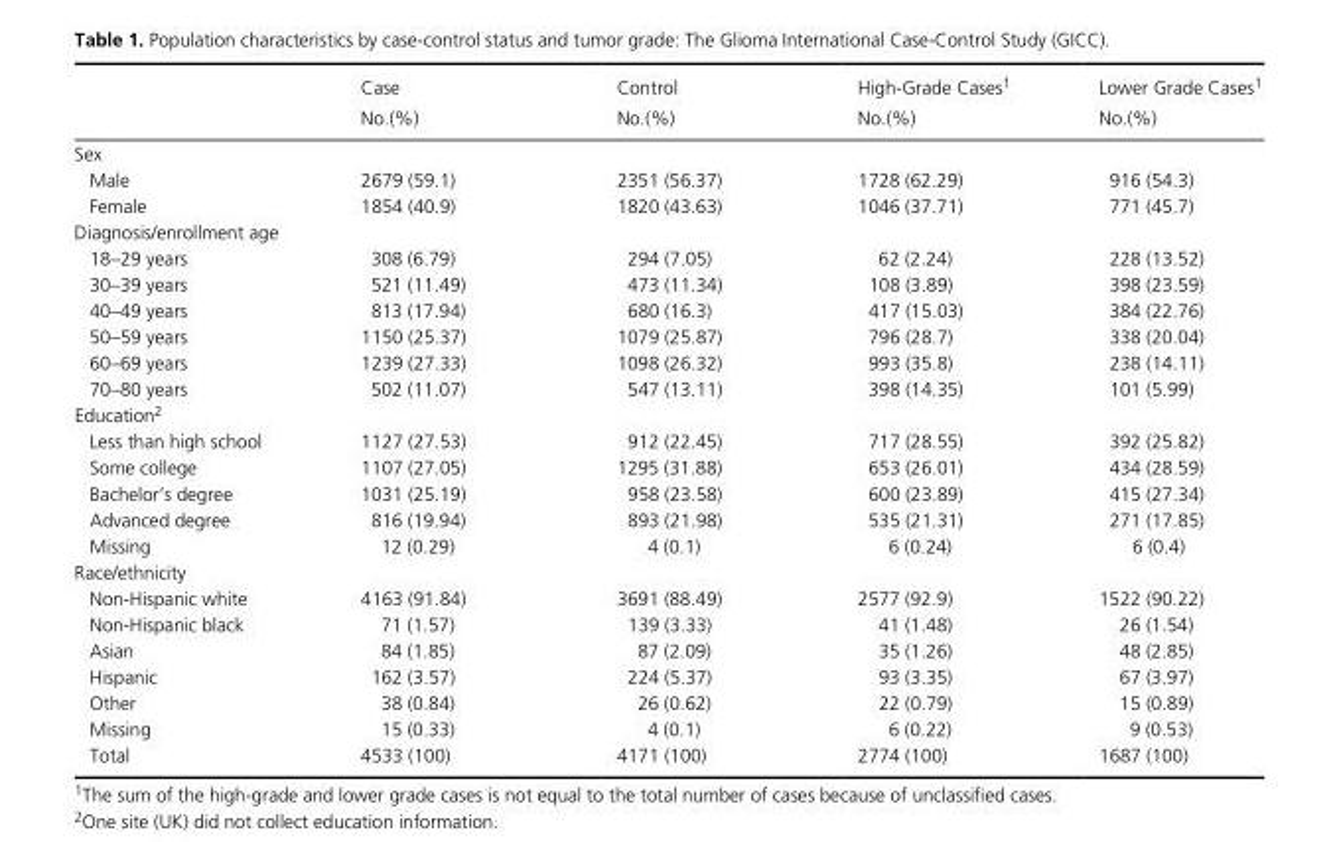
<table><thead><tr><td rowspan="2"></td><td rowspan="2">Case No.(%)</td><td rowspan="2">Control No.(%)</td><td rowspan="2">High- Grade Cases1 No.(%)</td><td rowspan="2">Lower Grade Cases1 No.(%)</td></tr><tr></tr></thead><tbody><tr><td colspan="5">Sex</td></tr><tr><td>Male</td><td>2679 (59.1)</td><td>2351 (56.37)</td><td>1728 (62.29)</td><td>916 (54.3)</td></tr><tr><td>Female</td><td>1854 (40.9)</td><td>1820 (43.63)</td><td>1046 (37.71)</td><td>771 (45.7)</td></tr><tr><td colspan="5">Diagnosis/enrollment age</td></tr><tr><td>18–29 years</td><td>308 (6.79)</td><td>294 (7.05)</td><td>62 (2.24)</td><td>228 (13.52)</td></tr><tr><td>30–39 years</td><td>521 (11.49)</td><td>473 (11.34)</td><td>108 (3.89)</td><td>398 (23.59)</td></tr><tr><td>40–49 years</td><td>813 (17.94)</td><td>680 (16.3)</td><td>417 (15.03)</td><td>384 (22.76)</td></tr><tr><td>50–59 years</td><td>1150 (25.37)</td><td>1079 (25.87)</td><td>796 (28.7)</td><td>338 (20.04)</td></tr><tr><td>60–69 years</td><td>1239 (27.33)</td><td>1098 (26.32)</td><td>993 (35.8)</td><td>238 (14.11)</td></tr><tr><td>70–80 years</td><td>502 (11.07)</td><td>547 (13.11)</td><td>398 (14.35)</td><td>101 (5.99)</td></tr><tr><td colspan="5">Education2</td></tr><tr><td>Less than high school</td><td>1127 (27.53)</td><td>912 (22.45)</td><td>717 (28.55)</td><td>392 (25.82)</td></tr><tr><td>Some college</td><td>1107 (27.05)</td><td>1295 (31.88)</td><td>653 (26.01)</td><td>434 (28.59)</td></tr><tr><td>Bachelor’s degree</td><td>1031 (25.19)</td><td>958 (23.58)</td><td>600 (23.89)</td><td>415 (27.34)</td></tr><tr><td>Advanced degree</td><td>816 (19.94)</td><td>893 (21.98)</td><td>535 (21.31)</td><td>271 (17.85)</td></tr><tr><td>Missing</td><td>12 (0.29)</td><td>4 (0.1)</td><td>6 (0.24)</td><td>6 (0.4)</td></tr><tr><td colspan="5">Race/ethnicity</td></tr><tr><td>Non- Hispanic white</td><td>4163 (91.84)</td><td>3691 (88.49)</td><td>2577 (92.9)</td><td>1522 (90.22)</td></tr><tr><td>Non- Hispanic black</td><td>71 (1.57)</td><td>139 (3.33)</td><td>41 (1.48)</td><td>26 (1.54)</td></tr><tr><td>Asian</td><td>84 (1.85)</td><td>87 (2.09)</td><td>35 (1.26)</td><td>48 (2.85)</td></tr><tr><td>Hispanic</td><td>162 (3.57)</td><td>224 (5.37)</td><td>93 (3.35)</td><td>67 (3.97)</td></tr><tr><td>Other</td><td>38 (0.84)</td><td>26 (0.62)</td><td>22 (0.79)</td><td>15 (0.89)</td></tr><tr><td>Missing</td><td>15 (0.33)</td><td>4 (0.1)</td><td>6 (0.22)</td><td>9 (0.53)</td></tr><tr><td>Total</td><td>4533 (100)</td><td>4171 (100)</td><td>2774 (100)</td><td>1687 (100)</td></tr></tbody></table>